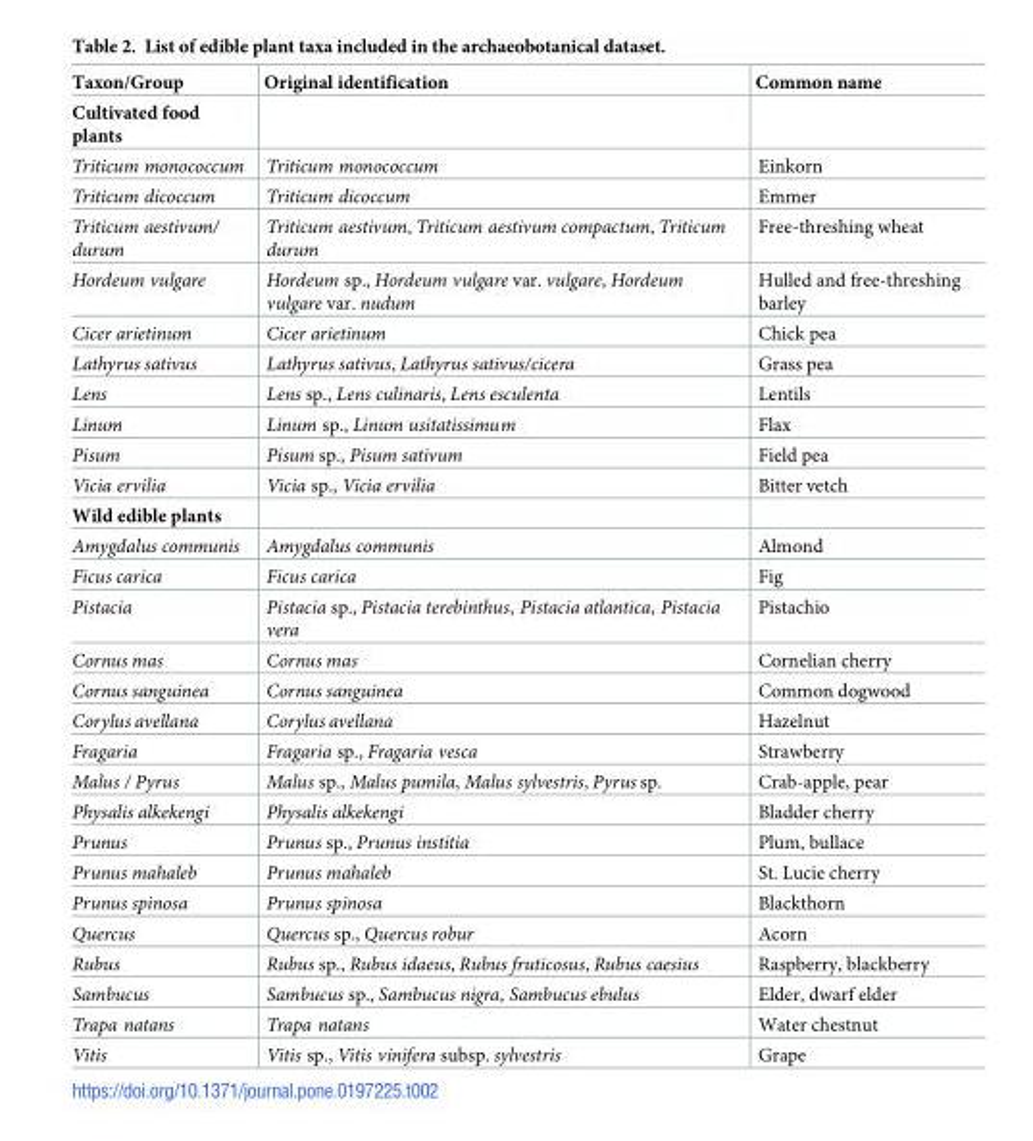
<table><thead><tr><td>Taxon/Group</td><td>Original identification</td><td>Common name</td></tr></thead><tbody><tr><td colspan="3">Cultivated food plants</td></tr><tr><td>Triticum monococcum</td><td>Triticum monococcum</td><td>Einkorn</td></tr><tr><td>Triticum dicoccum</td><td>Triticum dicoccum</td><td>Emmer</td></tr><tr><td>Triticum aestivum/ durum</td><td>Triticum aestivum, Triticum aestivum compactum, Triticum durum</td><td>Free-threshing wheat</td></tr><tr><td>Hordeum vulgare</td><td>Hordeum sp., Hordeum vulgare var. vulgare, Hordeum vulgare var. nudum</td><td>Hulled and free-threshing barley</td></tr><tr><td>Cicer arietinum</td><td>Cicer arietinum</td><td>Chick pea</td></tr><tr><td>Lathyrus sativus</td><td>Lathyrus sativus, Lathyrus sativus/cicera</td><td>Grass pea</td></tr><tr><td>Lens</td><td>Lens sp., Lens culinaris, Lens esculenta</td><td>Lentils</td></tr><tr><td>Linum</td><td>Linum sp., Linum usitatissimum</td><td>Flax</td></tr><tr><td>Pisum</td><td>Pisum sp., Pisum sativum</td><td>Field pea</td></tr><tr><td>Vicia ervilia</td><td>Vicia sp., Vicia ervilia</td><td>Bitter vetch</td></tr><tr><td colspan="3">Wild edible plants</td></tr><tr><td>Amygdalus communis</td><td>Amygdalus communis</td><td>Almond</td></tr><tr><td>Ficus carica</td><td>Ficus carica</td><td>Fig</td></tr><tr><td>Pistacia</td><td>Pistacia sp., Pistacia terebinthus, Pistacia atlantica, Pistacia vera</td><td>Pistachio</td></tr><tr><td>Cornus mas</td><td>Cornus mas</td><td>Cornelian cherry</td></tr><tr><td>Cornus sanguinea</td><td>Cornus sanguinea</td><td>Common dogwood</td></tr><tr><td>Corylus avellana</td><td>Corylus avellana</td><td>Hazelnut</td></tr><tr><td>Fragaria</td><td>Fragaria sp., Fragaria vesca</td><td>Strawberry</td></tr><tr><td>Malus / Pyrus</td><td>Malus sp., Malus pumila, Malus sylvestris, Pyrus sp.</td><td>Crab-apple, pear</td></tr><tr><td>Physalis alkekengi</td><td>Physalis alkekengi</td><td>Bladder cherry</td></tr><tr><td>Prunus</td><td>Prunus sp., Prunus institia</td><td>Plum, bullace</td></tr><tr><td>Prunus mahaleb</td><td>Prunus mahaleb</td><td>St. Lucie cherry</td></tr><tr><td>Prunus spinosa</td><td>Prunus spinosa</td><td>Blackthorn</td></tr><tr><td>Quercus</td><td>Quercus sp., Quercus robur</td><td>Acorn</td></tr><tr><td>Rubus</td><td>Rubus sp., Rubus idaeus, Rubus fruticosus, Rubus caesius</td><td>Raspberry, blackberry</td></tr><tr><td>Sambucus</td><td>Sambucus sp., Sambucus nigra, Sambucus ebulus</td><td>Elder, dwarf elder</td></tr><tr><td>Trapa natans</td><td>Trapa natans</td><td>Water chestnut</td></tr><tr><td>Vitis</td><td>Vitis sp., Vitis vinifera subsp. sylvestris</td><td>Grape</td></tr></tbody></table>